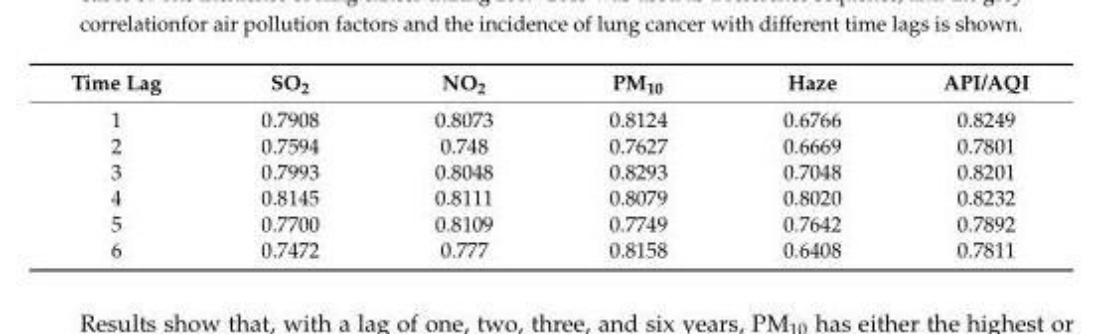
<table><thead><tr><td>Time Lag</td><td>SO<sub>2</sub></td><td>NO<sub>2</sub></td><td>PM<sub>10</sub></td><td>Haze</td><td>API/AQI</td></tr></thead><tbody><tr><td>1</td><td>0.7908</td><td>0.8073</td><td>0.8124</td><td>0.6766</td><td>0.8249</td></tr><tr><td>2</td><td>0.7594</td><td>0.748</td><td>0.7627</td><td>0.6669</td><td>0.7801</td></tr><tr><td>3</td><td>0.7993</td><td>0.8048</td><td>0.8293</td><td>0.7048</td><td>0.8201</td></tr><tr><td>4</td><td>0.8145</td><td>0.8111</td><td>0.8079</td><td>0.8020</td><td>0.8232</td></tr><tr><td>5</td><td>0.7700</td><td>0.8109</td><td>0.7749</td><td>0.7642</td><td>0.7892</td></tr><tr><td>6</td><td>0.7472</td><td>0.777</td><td>0.8158</td><td>0.6408</td><td>0.7811</td></tr></tbody></table>